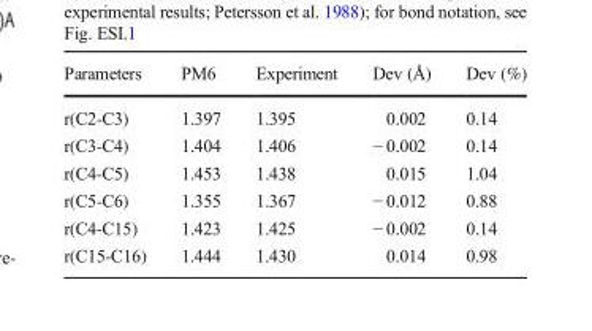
<table><thead><tr><td>Parameters</td><td>PM6</td><td>Experiment</td><td>Dev (Å)</td><td>Dev (%)</td></tr></thead><tbody><tr><td>r(C2-C3)</td><td>1.397</td><td>1.395</td><td>0.002</td><td>0.14</td></tr><tr><td>r(C3-C4)</td><td>1.404</td><td>1.406</td><td>− 0.002</td><td>0.14</td></tr><tr><td>r(C4-C5)</td><td>1.453</td><td>1.438</td><td>0.015</td><td>1.04</td></tr><tr><td>r(C5-C6)</td><td>1.355</td><td>1.367</td><td>− 0.012</td><td>0.88</td></tr><tr><td>r(C4-C15)</td><td>1.423</td><td>1.425</td><td>− 0.002</td><td>0.14</td></tr><tr><td>r(C15-C16)</td><td>1.444</td><td>1.430</td><td>0.014</td><td>0.98</td></tr></tbody></table>